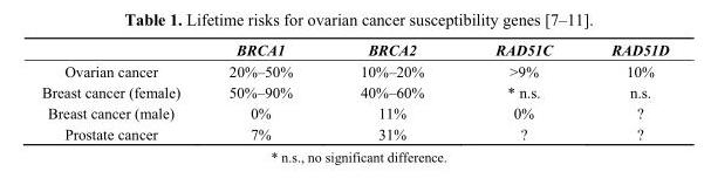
<table><thead><tr><td></td><td>BRCA1</td><td>BRCA2</td><td>RAD51C</td><td>RAD51D</td></tr></thead><tbody><tr><td>Ovarian cancer</td><td>20%–50%</td><td>10%–20%</td><td>&gt;9%</td><td>10%</td></tr><tr><td>Breast cancer (female)</td><td>50%–90%</td><td>40%–60%</td><td>* n.s.</td><td>n.s.</td></tr><tr><td>Breast cancer (male)</td><td>0%</td><td>11%</td><td>0%</td><td>?</td></tr><tr><td>Prostate cancer</td><td>7%</td><td>31%</td><td>?</td><td>?</td></tr></tbody></table>